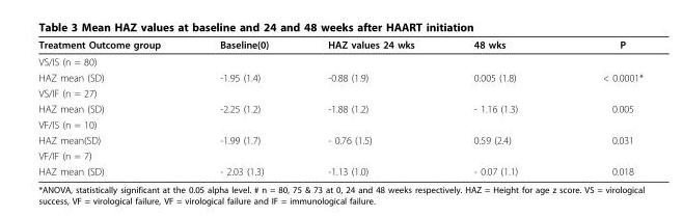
<table><thead><tr><td>Treatment Outcome group</td><td>Baseline(0)</td><td>HAZ values 24 wks</td><td>48 wks</td><td>P</td></tr></thead><tbody><tr><td colspan="5">VS/IS (n = 80)</td></tr><tr><td>HAZ mean (SD)</td><td>-1.95 (1.4)</td><td>-0.88 (1.9)</td><td>0.005 (1.8)</td><td>&lt; 0.0001*</td></tr><tr><td colspan="5">VS/IF (n = 27)</td></tr><tr><td>HAZ mean (SD)</td><td>-2.25 (1.2)</td><td>-1.88 (1.2)</td><td>- 1.16 (1.3)</td><td>0.005</td></tr><tr><td colspan="5">VF/IS (n = 10)</td></tr><tr><td>HAZ mean(SD)</td><td>-1.99 (1.7)</td><td>- 0.76 (1.5)</td><td>0.59 (2.4)</td><td>0.031</td></tr><tr><td colspan="5">VF/IF (n = 7)</td></tr><tr><td>HAZ mean (SD)</td><td>- 2.03 (1.3)</td><td>-1.13 (1.0)</td><td>- 0.07 (1.1)</td><td>0.018</td></tr></tbody></table>